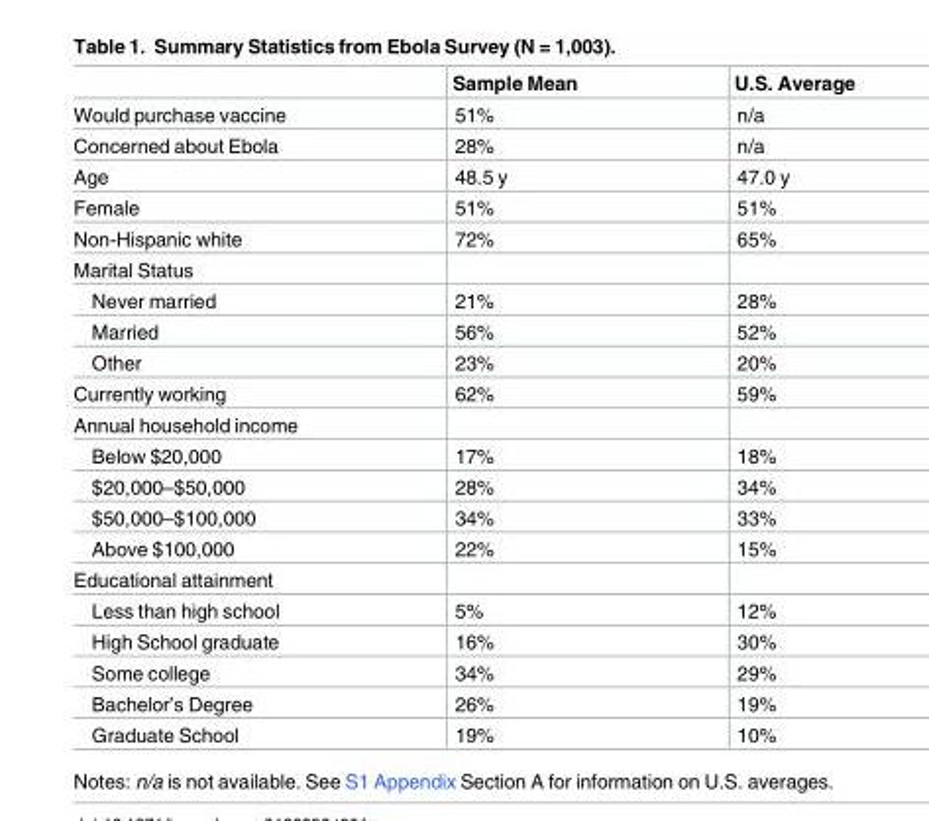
<table><thead><tr><td></td><td>Sample Mean</td><td>U.S. Average</td></tr></thead><tbody><tr><td>Would purchase vaccine</td><td>51%</td><td>n/a</td></tr><tr><td>Concerned about Ebola</td><td>28%</td><td>n/a</td></tr><tr><td>Age</td><td>48.5 y</td><td>47.0 y</td></tr><tr><td>Female</td><td>51%</td><td>51%</td></tr><tr><td>Non-Hispanic white</td><td>72%</td><td>65%</td></tr><tr><td colspan="3">Marital Status</td></tr><tr><td>Never married</td><td>21%</td><td>28%</td></tr><tr><td>Married</td><td>56%</td><td>52%</td></tr><tr><td>Other</td><td>23%</td><td>20%</td></tr><tr><td>Currently working</td><td>62%</td><td>59%</td></tr><tr><td colspan="3">Annual household income</td></tr><tr><td>Below $20,000</td><td>17%</td><td>18%</td></tr><tr><td>$20,000–$50,000</td><td>28%</td><td>34%</td></tr><tr><td>$50,000–$100,000</td><td>34%</td><td>33%</td></tr><tr><td>Above $100,000</td><td>22%</td><td>15%</td></tr><tr><td colspan="3">Educational attainment</td></tr><tr><td>Less than high school</td><td>5%</td><td>12%</td></tr><tr><td>High School graduate</td><td>16%</td><td>30%</td></tr><tr><td>Some college</td><td>34%</td><td>29%</td></tr><tr><td>Bachelor’s Degree</td><td>26%</td><td>19%</td></tr><tr><td>Graduate School</td><td>19%</td><td>10%</td></tr></tbody></table>